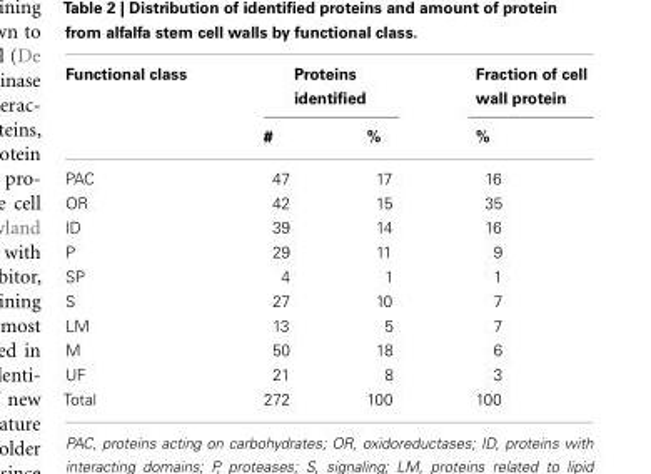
<table><thead><tr><td rowspan="2">Functional class</td><td colspan="2">Proteins identified</td><td rowspan="2">Fraction of cell wall protein %</td></tr><tr><td>#</td><td>%</td></tr></thead><tbody><tr><td>PAC</td><td>47</td><td>17</td><td>16</td></tr><tr><td>OR</td><td>42</td><td>15</td><td>35</td></tr><tr><td>ID</td><td>39</td><td>14</td><td>16</td></tr><tr><td>P</td><td>29</td><td>11</td><td>9</td></tr><tr><td>SP</td><td>4</td><td>1</td><td>1</td></tr><tr><td>S</td><td>27</td><td>10</td><td>7</td></tr><tr><td>LM</td><td>13</td><td>5</td><td>7</td></tr><tr><td>M</td><td>50</td><td>18</td><td>6</td></tr><tr><td>UF</td><td>21</td><td>8</td><td>3</td></tr><tr><td>Total</td><td>272</td><td>100</td><td>100</td></tr></tbody></table>